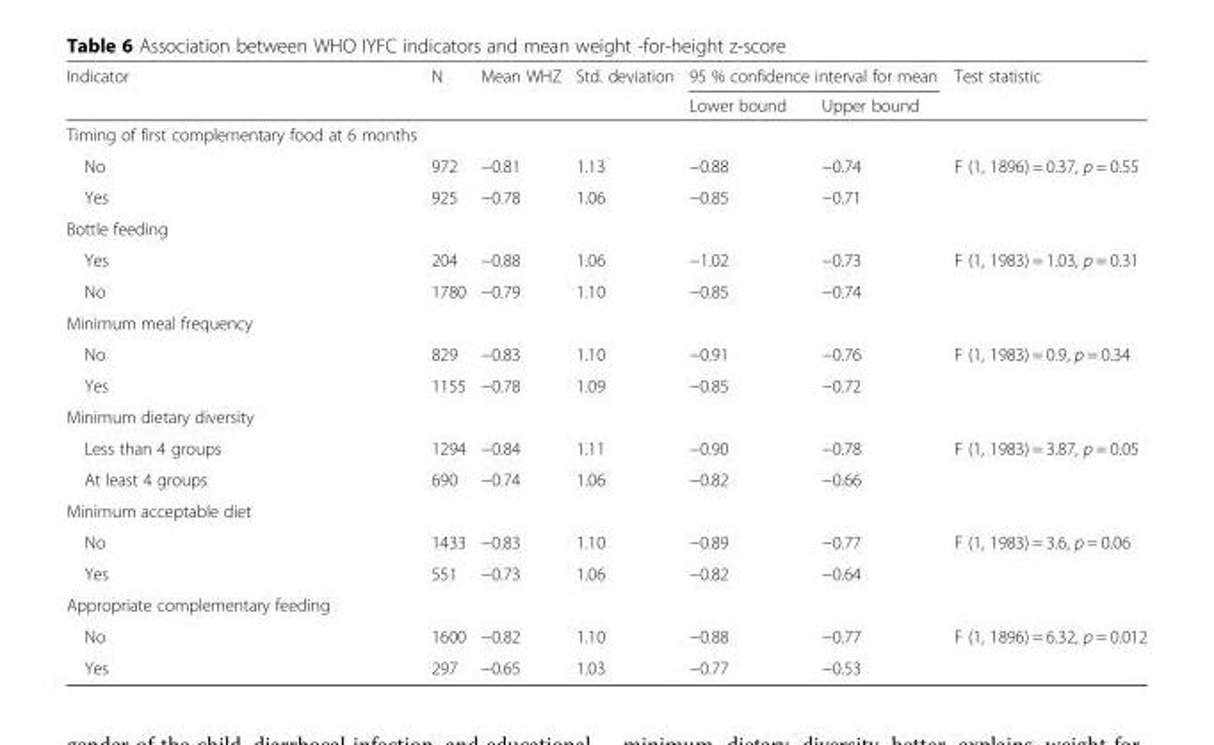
<table><thead><tr><td rowspan="2">Indicator</td><td rowspan="2">N</td><td rowspan="2">Mean WHZ</td><td rowspan="2">Std. deviation</td><td colspan="2">95 % confidence interval for mean</td><td rowspan="2">Test statistic</td></tr><tr><td>Lower bound</td><td>Upper bound</td></tr></thead><tbody><tr><td colspan="7">Timing of first complementary food at 6 months</td></tr><tr><td>No</td><td>972</td><td>−0.81</td><td>1.13</td><td>−0.88</td><td>−0.74</td><td rowspan="2">F (1, 1896) = 0.37, p = 0.55</td></tr><tr><td>Yes</td><td>925</td><td>−0.78</td><td>1.06</td><td>−0.85</td><td>−0.71</td></tr><tr><td colspan="7">Bottle feeding</td></tr><tr><td>Yes</td><td>204</td><td>−0.88</td><td>1.06</td><td>−1.02</td><td>−0.73</td><td rowspan="2">F (1, 1983) = 1.03, p = 0.31</td></tr><tr><td>No</td><td>1780</td><td>−0.79</td><td>1.10</td><td>−0.85</td><td>−0.74</td></tr><tr><td colspan="7">Minimum meal frequency</td></tr><tr><td>No</td><td>829</td><td>−0.83</td><td>1.10</td><td>−0.91</td><td>−0.76</td><td rowspan="2">F (1, 1983) = 0.9, p = 0.34</td></tr><tr><td>Yes</td><td>1155</td><td>−0.78</td><td>1.09</td><td>−0.85</td><td>−0.72</td></tr><tr><td colspan="7">Minimum dietary diversity</td></tr><tr><td>Less than 4 groups</td><td>1294</td><td>−0.84</td><td>1.11</td><td>−0.90</td><td>−0.78</td><td rowspan="2">F (1, 1983) = 3.87, p = 0.05</td></tr><tr><td>At least 4 groups</td><td>690</td><td>−0.74</td><td>1.06</td><td>−0.82</td><td>−0.66</td></tr><tr><td colspan="7">Minimum acceptable diet</td></tr><tr><td>No</td><td>1433</td><td>−0.83</td><td>1.10</td><td>−0.89</td><td>−0.77</td><td rowspan="2">F (1, 1983) = 3.6, p = 0.06</td></tr><tr><td>Yes</td><td>551</td><td>−0.73</td><td>1.06</td><td>−0.82</td><td>−0.64</td></tr><tr><td colspan="7">Appropriate complementary feeding</td></tr><tr><td>No</td><td>1600</td><td>−0.82</td><td>1.10</td><td>−0.88</td><td>−0.77</td><td rowspan="2">F (1, 1896) = 6.32, p = 0.012</td></tr><tr><td>Yes</td><td>297</td><td>−0.65</td><td>1.03</td><td>−0.77</td><td>−0.53</td></tr></tbody></table>